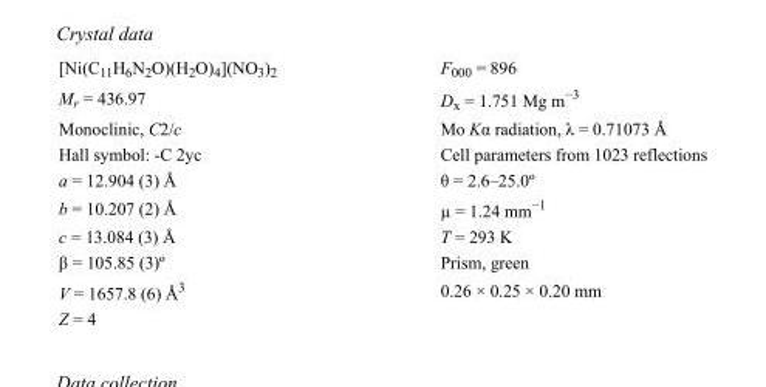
<table><tbody><tr><td>[Ni(C<sub>11</sub>H<sub>6</sub>N<sub>2</sub>O)(H<sub>2</sub>O)<sub>4</sub>](NO<sub>3</sub>)<sub>2</sub></td><td>F000 = 896</td></tr><tr><td>M<sub>r</sub> = 436.97</td><td>D<sub>x</sub> = 1.751 Mg m<sup>−3</sup></td></tr><tr><td>Monoclinic, C2/c</td><td>Mo Kα radiation, λ = 0.71073 Å</td></tr><tr><td>Hall symbol: -C 2yc</td><td>Cell parameters from 1023 reflections</td></tr><tr><td>a = 12.904 (3) Å</td><td>θ = 2.6–25.0º</td></tr><tr><td>b = 10.207 (2) Å</td><td>µ = 1.24 mm<sup>−1</sup></td></tr><tr><td>c = 13.084 (3) Å</td><td>T = 293 K</td></tr><tr><td>β = 105.85 (3)º</td><td>Prism, green</td></tr><tr><td>V = 1657.8 (6) Å<sup>3</sup></td><td>0.26 × 0.25 × 0.20 mm</td></tr><tr><td>Z = 4</td><td></td></tr></tbody></table>